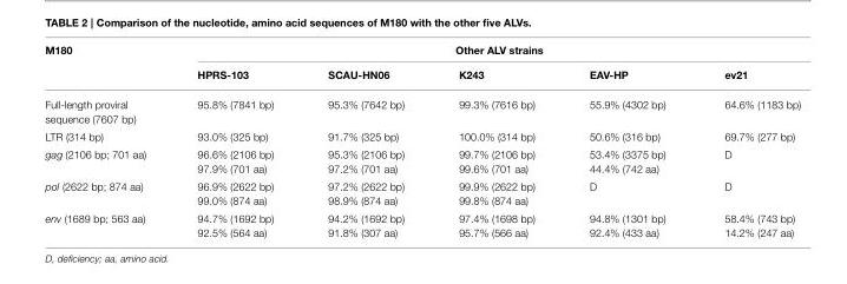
<table><thead><tr><td rowspan="2">M180</td><td colspan="5">Other ALV strains</td></tr><tr><td>HPRS-103</td><td>SCAU-HN06</td><td>K243</td><td>EAV-HP</td><td>ev21</td></tr></thead><tbody><tr><td>Full-length proviral sequence (7607 bp)</td><td>95.8% (7841 bp)</td><td>95.3% (7642 bp)</td><td>99.3% (7616 bp)</td><td>55.9% (4302 bp)</td><td>64.6% (1183 bp)</td></tr><tr><td>LTR (314 bp)</td><td>93.0% (325 bp)</td><td>91.7% (325 bp)</td><td>100.0% (314 bp)</td><td>50.6% (316 bp)</td><td>69.7% (277 bp)</td></tr><tr><td>gag (2106 bp; 701 aa)</td><td>96.6% (2106 bp) 97.9% (701 aa)</td><td>95.3% (2106 bp) 97.2% (701 aa)</td><td>99.7% (2106 bp) 99.6% (701 aa)</td><td>53.4% (3375 bp) 44.4% (742 aa)</td><td>D</td></tr><tr><td>pol (2622 bp; 874 aa)</td><td>96.9% (2622 bp) 99.0% (874 aa)</td><td>97.2% (2622 bp) 98.9% (874 aa)</td><td>99.9% (2622 bp) 99.8% (874 aa)</td><td>D</td><td>D</td></tr><tr><td>env (1689 bp; 563 aa)</td><td>94.7% (1692 bp) 92.5% (564 aa)</td><td>94.2% (1692 bp) 91.8% (307 aa)</td><td>97.4% (1698 bp) 95.7% (566 aa)</td><td>94.8% (1301 bp) 92.4% (433 aa)</td><td>58.4% (743 bp) 14.2% (247 aa)</td></tr></tbody></table>